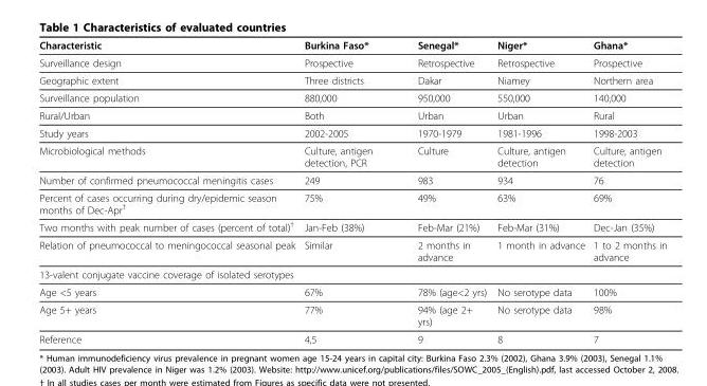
<table><thead><tr><td>Characteristic</td><td>Burkina Faso*</td><td>Senegal*</td><td>Niger*</td><td>Ghana*</td></tr></thead><tbody><tr><td>Surveillance design</td><td>Prospective</td><td>Retrospective</td><td>Retrospective</td><td>Prospective</td></tr><tr><td>Geographic extent</td><td>Three districts</td><td>Dakar</td><td>Niamey</td><td>Northern area</td></tr><tr><td>Surveillance population</td><td>880,000</td><td>950,000</td><td>550,000</td><td>140,000</td></tr><tr><td>Rural/Urban</td><td>Both</td><td>Urban</td><td>Urban</td><td>Rural</td></tr><tr><td>Study years</td><td>2002-2005</td><td>1970-1979</td><td>1981-1996</td><td>1998-2003</td></tr><tr><td>Microbiological methods</td><td>Culture, antigen detection, PCR</td><td>Culture</td><td>Culture, antigen detection</td><td>Culture, antigen detection</td></tr><tr><td>Number of confirmed pneumococcal meningitis cases</td><td>249</td><td>983</td><td>934</td><td>76</td></tr><tr><td>Percent of cases occurring during dry/epidemic season months of Dec-Apr<sup>†</sup></td><td>75%</td><td>49%</td><td>63%</td><td>69%</td></tr><tr><td>Two months with peak number of cases (percent of total)<sup>†</sup></td><td>Jan-Feb (38%)</td><td>Feb-Mar (21%)</td><td>Feb-Mar (31%)</td><td>Dec-Jan (35%)</td></tr><tr><td>Relation of pneumococcal to meningococcal seasonal peak</td><td>Similar</td><td>2 months in advance</td><td>1 month in advance</td><td>1 to 2 months in advance</td></tr><tr><td colspan="5">13-valent conjugate vaccine coverage of isolated serotypes</td></tr><tr><td>Age &lt;5 years</td><td>67%</td><td>78% (age&lt;2 yrs)</td><td>No serotype data</td><td>100%</td></tr><tr><td>Age 5+ years</td><td>77%</td><td>94% (age 2+ yrs)</td><td>No serotype data</td><td>98%</td></tr><tr><td>Reference</td><td>4,5</td><td>9</td><td>8</td><td>7</td></tr></tbody></table>